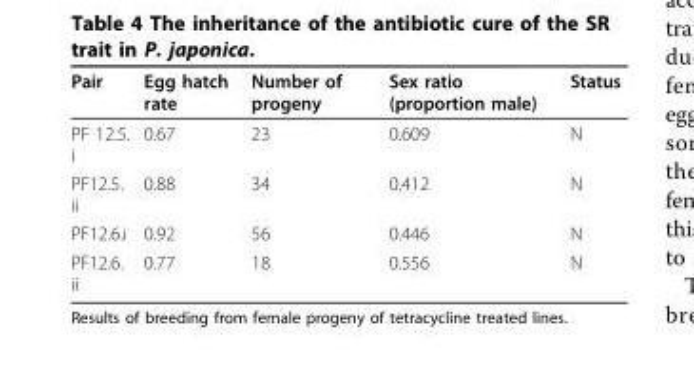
<table><thead><tr><td>Pair</td><td>Egg hatch rate</td><td>Number of progeny</td><td>Sex ratio (proportion male)</td><td>Status</td></tr></thead><tbody><tr><td>PF 12.5. i</td><td>0.67</td><td>23</td><td>0.609</td><td>N</td></tr><tr><td>PF12.5. ii</td><td>0.88</td><td>34</td><td>0.412</td><td>N</td></tr><tr><td>PF12.6.i</td><td>0.92</td><td>56</td><td>0.446</td><td>N</td></tr><tr><td>PF12.6. ii</td><td>0.77</td><td>18</td><td>0.556</td><td>N</td></tr></tbody></table>